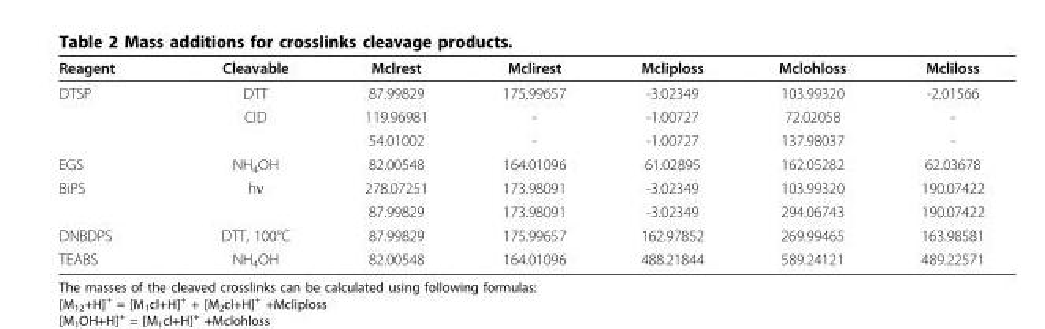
<table><thead><tr><td>Reagent</td><td>Cleavable</td><td>Mclrest</td><td>Mclirest</td><td>Mcliploss</td><td>Mclohloss</td><td>Mcliloss</td></tr></thead><tbody><tr><td rowspan="3">DTSP</td><td>DTT</td><td>87.99829</td><td>175.99657</td><td>-3.02349</td><td>103.99320</td><td>-2.01566</td></tr><tr><td>CID</td><td>119.96981</td><td>-</td><td>-1.00727</td><td>72.02058</td><td>-</td></tr><tr><td></td><td>54.01002</td><td>-</td><td>-1.00727</td><td>137.98037</td><td>-</td></tr><tr><td>EGS</td><td>NH<sub>4</sub>OH</td><td>82.00548</td><td>164.01096</td><td>61.02895</td><td>162.05282</td><td>62.03678</td></tr><tr><td rowspan="2">BiPS</td><td>hν</td><td>278.07251</td><td>173.98091</td><td>-3.02349</td><td>103.99320</td><td>190.07422</td></tr><tr><td></td><td>87.99829</td><td>173.98091</td><td>-3.02349</td><td>294.06743</td><td>190.07422</td></tr><tr><td>DNBDPS</td><td>DTT, 100°C</td><td>87.99829</td><td>175.99657</td><td>162.97852</td><td>269.99465</td><td>163.98581</td></tr><tr><td>TEABS</td><td>NH<sub>4</sub>OH</td><td>82.00548</td><td>164.01096</td><td>488.21844</td><td>589.24121</td><td>489.22571</td></tr></tbody></table>